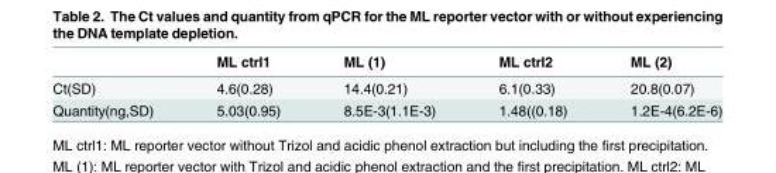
<table><thead><tr><td></td><td>ML ctrl1</td><td>ML (1)</td><td>ML ctrl2</td><td>ML (2)</td></tr></thead><tbody><tr><td>Ct(SD)</td><td>4.6(0.28)</td><td>14.4(0.21)</td><td>6.1(0.33)</td><td>20.8(0.07)</td></tr><tr><td>Quantity(ng,SD)</td><td>5.03(0.95)</td><td>8.5E-3(1.1E-3)</td><td>1.48((0.18)</td><td>1.2E-4(6.2E-6)</td></tr></tbody></table>